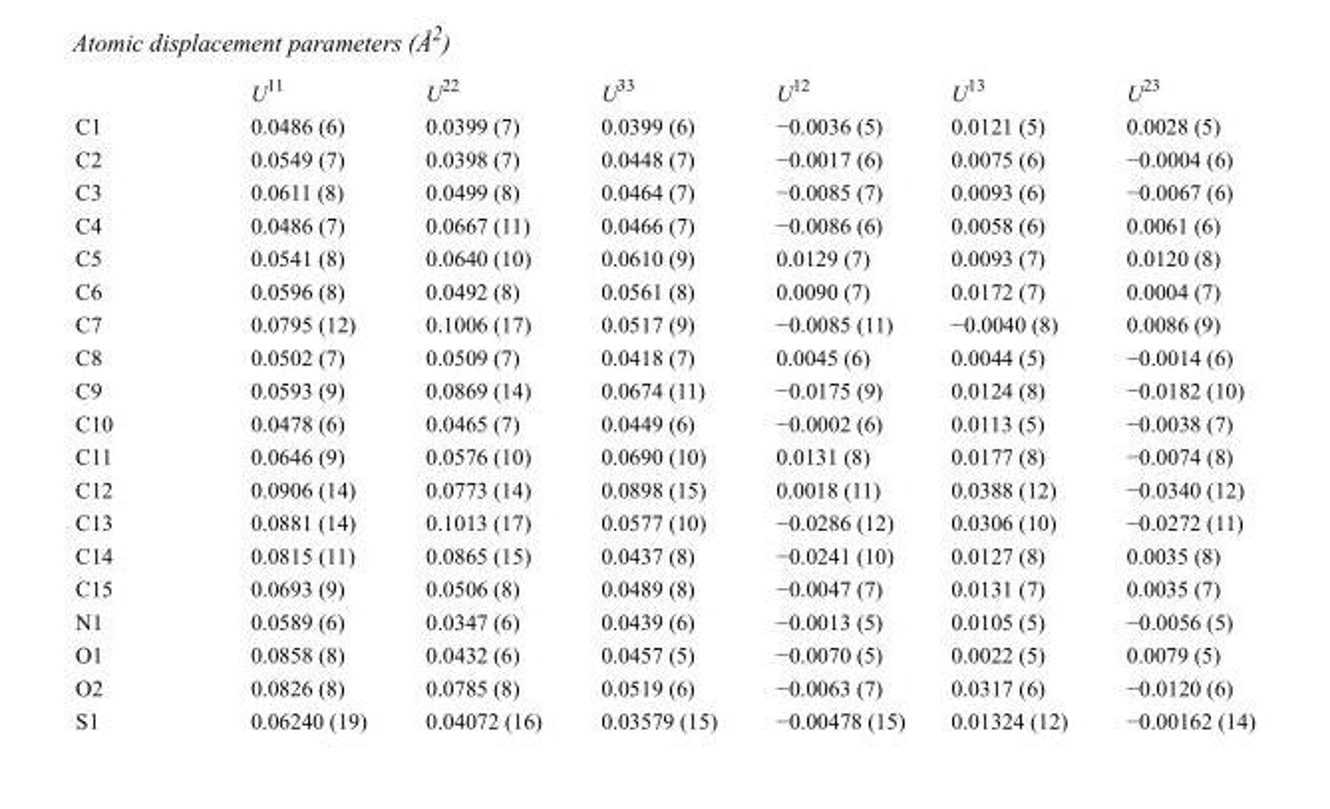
<table><thead><tr><td></td><td>U<sup>11</sup></td><td>U<sup>22</sup></td><td>U<sup>33</sup></td><td>U<sup>12</sup></td><td>U<sup>13</sup></td><td>U<sup>23</sup></td></tr></thead><tbody><tr><td>C1</td><td>0.0486 (6)</td><td>0.0399 (7)</td><td>0.0399 (6)</td><td>−0.0036 (5)</td><td>0.0121 (5)</td><td>0.0028 (5)</td></tr><tr><td>C2</td><td>0.0549 (7)</td><td>0.0398 (7)</td><td>0.0448 (7)</td><td>−0.0017 (6)</td><td>0.0075 (6)</td><td>−0.0004 (6)</td></tr><tr><td>C3</td><td>0.0611 (8)</td><td>0.0499 (8)</td><td>0.0464 (7)</td><td>−0.0085 (7)</td><td>0.0093 (6)</td><td>−0.0067 (6)</td></tr><tr><td>C4</td><td>0.0486 (7)</td><td>0.0667 (11)</td><td>0.0466 (7)</td><td>−0.0086 (6)</td><td>0.0058 (6)</td><td>0.0061 (6)</td></tr><tr><td>C5</td><td>0.0541 (8)</td><td>0.0640 (10)</td><td>0.0610 (9)</td><td>0.0129 (7)</td><td>0.0093 (7)</td><td>0.0120 (8)</td></tr><tr><td>C6</td><td>0.0596 (8)</td><td>0.0492 (8)</td><td>0.0561 (8)</td><td>0.0090 (7)</td><td>0.0172 (7)</td><td>0.0004 (7)</td></tr><tr><td>C7</td><td>0.0795 (12)</td><td>0.1006 (17)</td><td>0.0517 (9)</td><td>−0.0085 (11)</td><td>−0.0040 (8)</td><td>0.0086 (9)</td></tr><tr><td>C8</td><td>0.0502 (7)</td><td>0.0509 (7)</td><td>0.0418 (7)</td><td>0.0045 (6)</td><td>0.0044 (5)</td><td>−0.0014 (6)</td></tr><tr><td>C9</td><td>0.0593 (9)</td><td>0.0869 (14)</td><td>0.0674 (11)</td><td>−0.0175 (9)</td><td>0.0124 (8)</td><td>−0.0182 (10)</td></tr><tr><td>C10</td><td>0.0478 (6)</td><td>0.0465 (7)</td><td>0.0449 (6)</td><td>−0.0002 (6)</td><td>0.0113 (5)</td><td>−0.0038 (7)</td></tr><tr><td>C11</td><td>0.0646 (9)</td><td>0.0576 (10)</td><td>0.0690 (10)</td><td>0.0131 (8)</td><td>0.0177 (8)</td><td>−0.0074 (8)</td></tr><tr><td>C12</td><td>0.0906 (14)</td><td>0.0773 (14)</td><td>0.0898 (15)</td><td>0.0018 (11)</td><td>0.0388 (12)</td><td>−0.0340 (12)</td></tr><tr><td>C13</td><td>0.0881 (14)</td><td>0.1013 (17)</td><td>0.0577 (10)</td><td>−0.0286 (12)</td><td>0.0306 (10)</td><td>−0.0272 (11)</td></tr><tr><td>C14</td><td>0.0815 (11)</td><td>0.0865 (15)</td><td>0.0437 (8)</td><td>−0.0241 (10)</td><td>0.0127 (8)</td><td>0.0035 (8)</td></tr><tr><td>C15</td><td>0.0693 (9)</td><td>0.0506 (8)</td><td>0.0489 (8)</td><td>−0.0047 (7)</td><td>0.0131 (7)</td><td>0.0035 (7)</td></tr><tr><td>N1</td><td>0.0589 (6)</td><td>0.0347 (6)</td><td>0.0439 (6)</td><td>−0.0013 (5)</td><td>0.0105 (5)</td><td>−0.0056 (5)</td></tr><tr><td>O1</td><td>0.0858 (8)</td><td>0.0432 (6)</td><td>0.0457 (5)</td><td>−0.0070 (5)</td><td>0.0022 (5)</td><td>0.0079 (5)</td></tr><tr><td>O2</td><td>0.0826 (8)</td><td>0.0785 (8)</td><td>0.0519 (6)</td><td>−0.0063 (7)</td><td>0.0317 (6)</td><td>−0.0120 (6)</td></tr><tr><td>S1</td><td>0.06240 (19)</td><td>0.04072 (16)</td><td>0.03579 (15)</td><td>−0.00478 (15)</td><td>0.01324 (12)</td><td>−0.00162 (14)</td></tr></tbody></table>